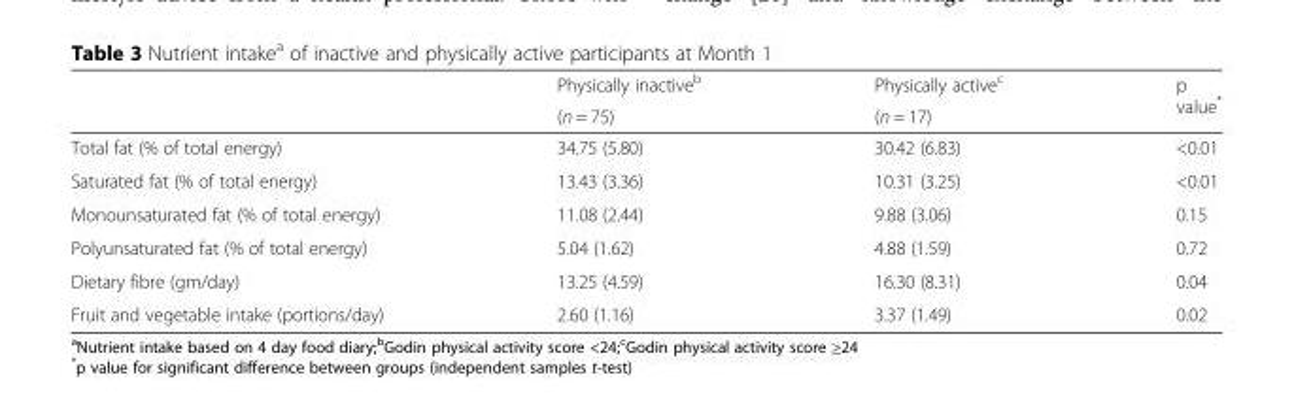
<table><thead><tr><td rowspan="2"></td><td rowspan="2">Physically inactive<sup>b</sup> (n = 75)</td><td rowspan="2">Physically active<sup>c</sup> (n = 17)</td><td rowspan="2">p value*</td></tr><tr></tr></thead><tbody><tr><td>Total fat (% of total energy)</td><td>34.75 (5.80)</td><td>30.42 (6.83)</td><td>&lt;0.01</td></tr><tr><td>Saturated fat (% of total energy)</td><td>13.43 (3.36)</td><td>10.31 (3.25)</td><td>&lt;0.01</td></tr><tr><td>Monounsaturated fat (% of total energy)</td><td>11.08 (2.44)</td><td>9.88 (3.06)</td><td>0.15</td></tr><tr><td>Polyunsaturated fat (% of total energy)</td><td>5.04 (1.62)</td><td>4.88 (1.59)</td><td>0.72</td></tr><tr><td>Dietary fibre (gm/day)</td><td>13.25 (4.59)</td><td>16.30 (8.31)</td><td>0.04</td></tr><tr><td>Fruit and vegetable intake (portions/day)</td><td>2.60 (1.16)</td><td>3.37 (1.49)</td><td>0.02</td></tr></tbody></table>